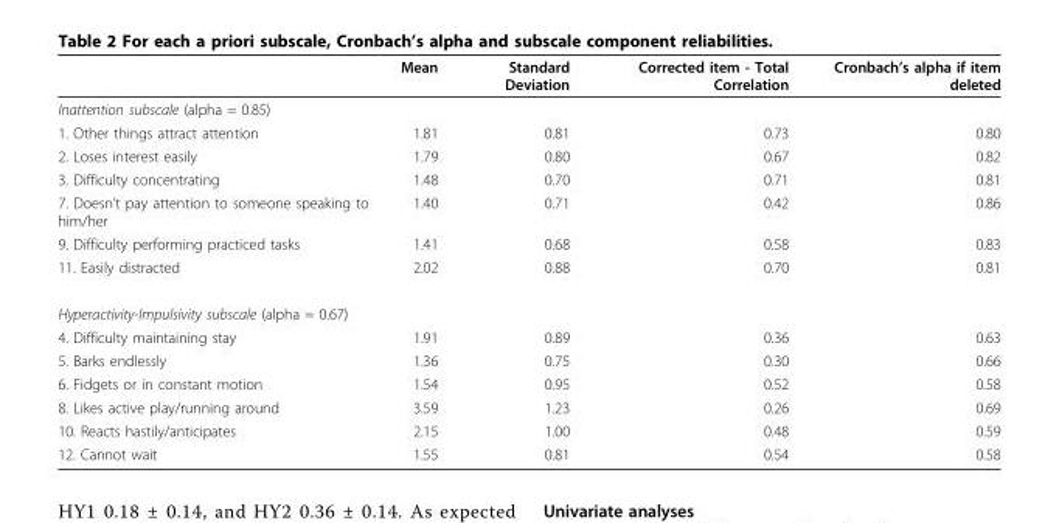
<table><thead><tr><td></td><td>Mean</td><td>Standard Deviation</td><td>Corrected item - Total Correlation</td><td>Cronbach’s alpha if item deleted</td></tr></thead><tbody><tr><td colspan="5">Inattention subscale (alpha = 0.85)</td></tr><tr><td>1. Other things attract attention</td><td>1.81</td><td>0.81</td><td>0.73</td><td>0.80</td></tr><tr><td>2. Loses interest easily</td><td>1.79</td><td>0.80</td><td>0.67</td><td>0.82</td></tr><tr><td>3. Difficulty concentrating</td><td>1.48</td><td>0.70</td><td>0.71</td><td>0.81</td></tr><tr><td>7. Doesn’t pay attention to someone speaking to him/her</td><td>1.40</td><td>0.71</td><td>0.42</td><td>0.86</td></tr><tr><td>9. Difficulty performing practiced tasks</td><td>1.41</td><td>0.68</td><td>0.58</td><td>0.83</td></tr><tr><td>11. Easily distracted</td><td>2.02</td><td>0.88</td><td>0.70</td><td>0.81</td></tr><tr><td colspan="5">Hyperactivity-Impulsivity subscale (alpha = 0.67)</td></tr><tr><td>4. Difficulty maintaining stay</td><td>1.91</td><td>0.89</td><td>0.36</td><td>0.63</td></tr><tr><td>5. Barks endlessly</td><td>1.36</td><td>0.75</td><td>0.30</td><td>0.66</td></tr><tr><td>6. Fidgets or in constant motion</td><td>1.54</td><td>0.95</td><td>0.52</td><td>0.58</td></tr><tr><td>8. Likes active play/running around</td><td>3.59</td><td>1.23</td><td>0.26</td><td>0.69</td></tr><tr><td>10. Reacts hastily/anticipates</td><td>2.15</td><td>1.00</td><td>0.48</td><td>0.59</td></tr><tr><td>12. Cannot wait</td><td>1.55</td><td>0.81</td><td>0.54</td><td>0.58</td></tr></tbody></table>